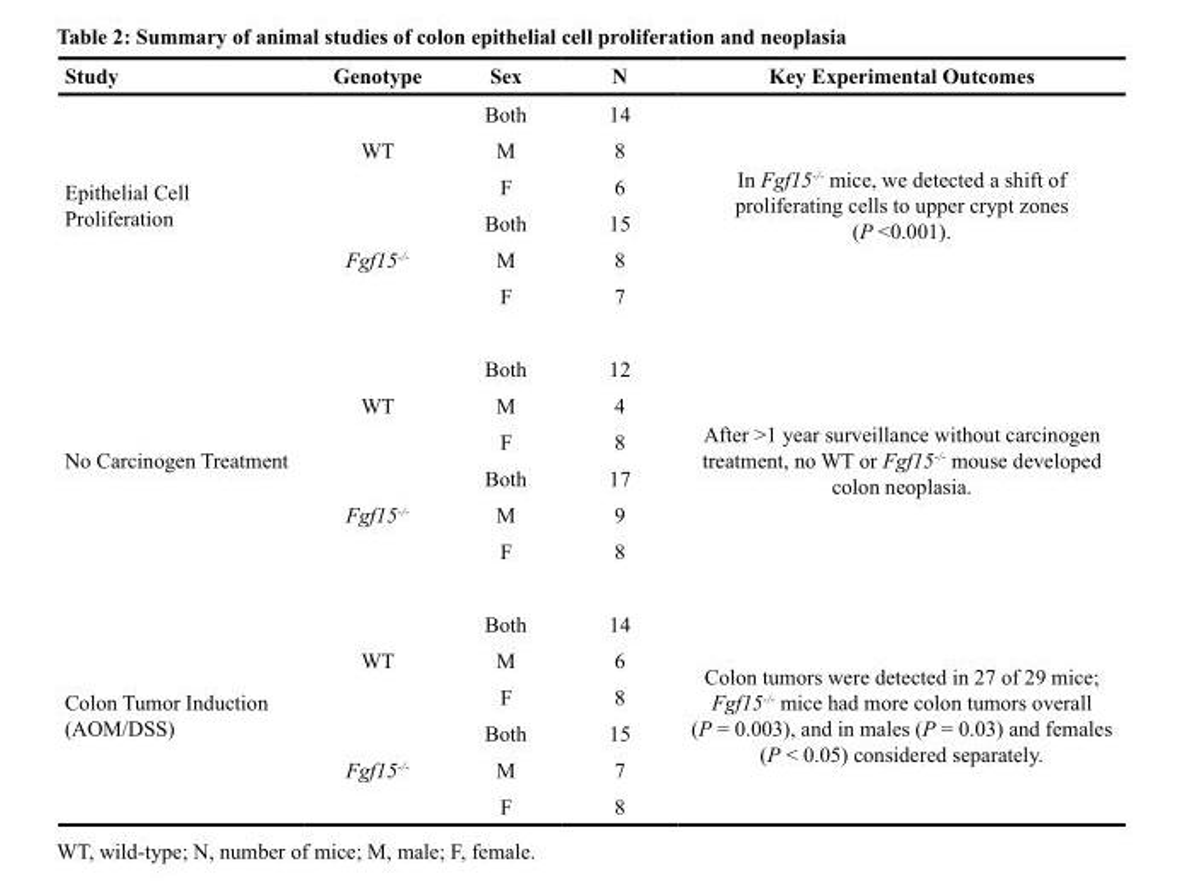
<table><thead><tr><td>Study</td><td>Genotype</td><td>Sex</td><td>N</td><td>Key Experimental Outcomes</td></tr></thead><tbody><tr><td rowspan="6">Epithelial Cell Proliferation</td><td rowspan="3">WT</td><td>Both</td><td>14</td><td rowspan="6">In Fgf15<sup>-/-</sup> mice, we detected a shift of proliferating cells to upper crypt zones (P &lt;0.001).</td></tr><tr><td>M</td><td>8</td></tr><tr><td>F</td><td>6</td></tr><tr><td rowspan="3">Fgf15<sup>-/-</sup></td><td>Both</td><td>15</td></tr><tr><td>M</td><td>8</td></tr><tr><td>F</td><td>7</td></tr><tr><td rowspan="6">No Carcinogen Treatment</td><td rowspan="3">WT</td><td>Both</td><td>12</td><td rowspan="6">After &gt;1 year surveillance without carcinogen treatment, no WT or Fgf15<sup>-/-</sup> mouse developed colon neoplasia.</td></tr><tr><td>M</td><td>4</td></tr><tr><td>F</td><td>8</td></tr><tr><td rowspan="3">Fgf15<sup>-/-</sup></td><td>Both</td><td>17</td></tr><tr><td>M</td><td>9</td></tr><tr><td>F</td><td>8</td></tr><tr><td rowspan="6">Colon Tumor Induction (AOM/DSS)</td><td rowspan="3">WT</td><td>Both</td><td>14</td><td rowspan="6">Colon tumors were detected in 27 of 29 mice; Fgf15<sup>-/-</sup> mice had more colon tumors overall (P = 0.003), and in males (P = 0.03) and females (P &lt; 0.05) considered separately.</td></tr><tr><td>M</td><td>6</td></tr><tr><td>F</td><td>8</td></tr><tr><td rowspan="3">Fgf15<sup>-/-</sup></td><td>Both</td><td>15</td></tr><tr><td>M</td><td>7</td></tr><tr><td>F</td><td>8</td></tr></tbody></table>